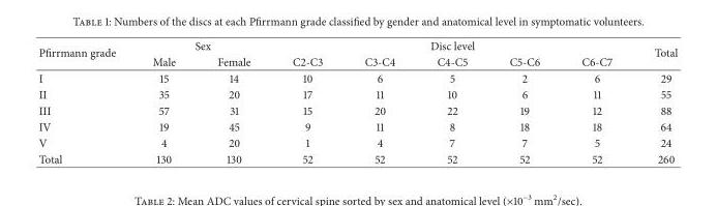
<table><thead><tr><td rowspan="2">Pfirrmann grade</td><td colspan="2">Sex</td><td colspan="5">Disc level</td><td rowspan="2">Total</td></tr><tr><td>Male</td><td>Female</td><td>C2-C3</td><td>C3-C4</td><td>C4-C5</td><td>C5-C6</td><td>C6-C7</td></tr></thead><tbody><tr><td>I</td><td>15</td><td>14</td><td>10</td><td>6</td><td>5</td><td>2</td><td>6</td><td>29</td></tr><tr><td>II</td><td>35</td><td>20</td><td>17</td><td>11</td><td>10</td><td>6</td><td>11</td><td>55</td></tr><tr><td>III</td><td>57</td><td>31</td><td>15</td><td>20</td><td>22</td><td>19</td><td>12</td><td>88</td></tr><tr><td>IV</td><td>19</td><td>45</td><td>9</td><td>11</td><td>8</td><td>18</td><td>18</td><td>64</td></tr><tr><td>V</td><td>4</td><td>20</td><td>1</td><td>4</td><td>7</td><td>7</td><td>5</td><td>24</td></tr><tr><td>Total</td><td>130</td><td>130</td><td>52</td><td>52</td><td>52</td><td>52</td><td>52</td><td>260</td></tr></tbody></table>